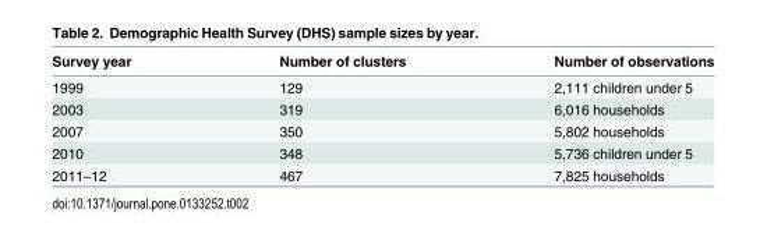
<table><thead><tr><td>Survey year</td><td>Number of clusters</td><td>Number of observations</td></tr></thead><tbody><tr><td>1999</td><td>129</td><td>2,111 children under 5</td></tr><tr><td>2003</td><td>319</td><td>6,016 households</td></tr><tr><td>2007</td><td>350</td><td>5,802 households</td></tr><tr><td>2010</td><td>348</td><td>5,736 children under 5</td></tr><tr><td>2011–12</td><td>467</td><td>7,825 households</td></tr></tbody></table>